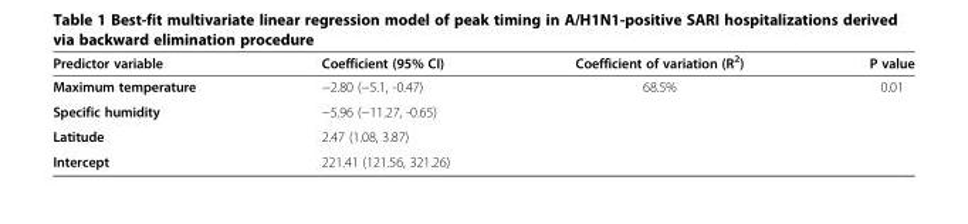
<table><thead><tr><td>Predictor variable</td><td>Coefficient (95% CI)</td><td>Coefficient of variation (R<sup>2</sup>)</td><td>P value</td></tr></thead><tbody><tr><td>Maximum temperature</td><td>−2.80 (−5.1, -0.47)</td><td>68.5%</td><td>0.01</td></tr><tr><td>Specific humidity</td><td>−5.96 (−11.27, -0.65)</td><td></td><td></td></tr><tr><td>Latitude</td><td>2.47 (1.08, 3.87)</td><td></td><td></td></tr><tr><td>Intercept</td><td>221.41 (121.56, 321.26)</td><td></td><td></td></tr></tbody></table>